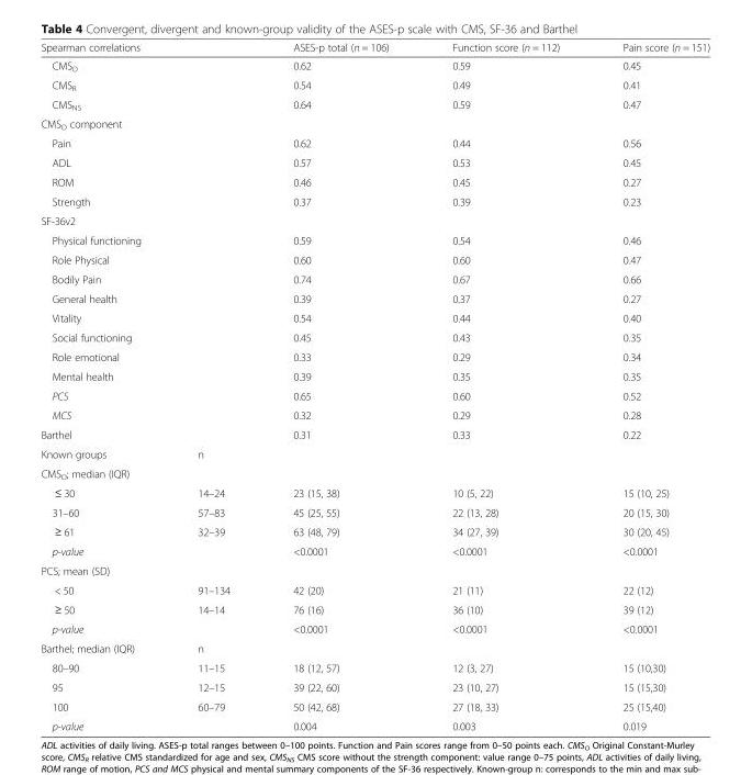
<table><thead><tr><td colspan="2">Spearman correlations</td><td>ASES-p total (n = 106)</td><td>Function score (n = 112)</td><td>Pain score (n = 151)</td></tr></thead><tbody><tr><td colspan="2">CMS<sub>O</sub></td><td>0.62</td><td>0.59</td><td>0.45</td></tr><tr><td colspan="2">CMS<sub>R</sub></td><td>0.54</td><td>0.49</td><td>0.41</td></tr><tr><td colspan="2">CMS<sub>NS</sub></td><td>0.64</td><td>0.59</td><td>0.47</td></tr><tr><td colspan="5">CMS<sub>O</sub> component</td></tr><tr><td colspan="2">Pain</td><td>0.62</td><td>0.44</td><td>0.56</td></tr><tr><td colspan="2">ADL</td><td>0.57</td><td>0.53</td><td>0.45</td></tr><tr><td colspan="2">ROM</td><td>0.46</td><td>0.45</td><td>0.27</td></tr><tr><td colspan="2">Strength</td><td>0.37</td><td>0.39</td><td>0.23</td></tr><tr><td colspan="5">SF-36v2</td></tr><tr><td colspan="2">Physical functioning</td><td>0.59</td><td>0.54</td><td>0.46</td></tr><tr><td colspan="2">Role Physical</td><td>0.60</td><td>0.60</td><td>0.47</td></tr><tr><td colspan="2">Bodily Pain</td><td>0.74</td><td>0.67</td><td>0.66</td></tr><tr><td colspan="2">General health</td><td>0.39</td><td>0.37</td><td>0.27</td></tr><tr><td colspan="2">Vitality</td><td>0.54</td><td>0.44</td><td>0.40</td></tr><tr><td colspan="2">Social functioning</td><td>0.45</td><td>0.43</td><td>0.35</td></tr><tr><td colspan="2">Role emotional</td><td>0.33</td><td>0.29</td><td>0.34</td></tr><tr><td colspan="2">Mental health</td><td>0.39</td><td>0.35</td><td>0.35</td></tr><tr><td colspan="2">PCS</td><td>0.65</td><td>0.60</td><td>0.52</td></tr><tr><td colspan="2">MCS</td><td>0.32</td><td>0.29</td><td>0.28</td></tr><tr><td colspan="2">Barthel</td><td>0.31</td><td>0.33</td><td>0.22</td></tr><tr><td>Known groups</td><td>n</td><td></td><td></td><td></td></tr><tr><td colspan="5">CMS<sub>O</sub>; median (IQR)</td></tr><tr><td>≤ 30</td><td>14–24</td><td>23 (15, 38)</td><td>10 (5, 22)</td><td>15 (10, 25)</td></tr><tr><td>31–60</td><td>57–83</td><td>45 (25, 55)</td><td>22 (13, 28)</td><td>20 (15, 30)</td></tr><tr><td>≥ 61</td><td>32–39</td><td>63 (48, 79)</td><td>34 (27, 39)</td><td>30 (20, 45)</td></tr><tr><td>p-value</td><td></td><td>&lt;0.0001</td><td>&lt;0.0001</td><td>&lt;0.0001</td></tr><tr><td colspan="5">PCS; mean (SD)</td></tr><tr><td>&lt; 50</td><td>91–134</td><td>42 (20)</td><td>21 (11)</td><td>22 (12)</td></tr><tr><td>≥ 50</td><td>14–14</td><td>76 (16)</td><td>36 (10)</td><td>39 (12)</td></tr><tr><td>p-value</td><td></td><td>&lt;0.0001</td><td>&lt;0.0001</td><td>&lt;0.0001</td></tr><tr><td>Barthel; median (IQR)</td><td>n</td><td></td><td></td><td></td></tr><tr><td>80–90</td><td>11–15</td><td>18 (12, 57)</td><td>12 (3, 27)</td><td>15 (10,30)</td></tr><tr><td>95</td><td>12–15</td><td>39 (22, 60)</td><td>23 (10, 27)</td><td>15 (15,30)</td></tr><tr><td>100</td><td>60–79</td><td>50 (42, 68)</td><td>27 (18, 33)</td><td>25 (15,40)</td></tr><tr><td>p-value</td><td></td><td>0.004</td><td>0.003</td><td>0.019</td></tr></tbody></table>